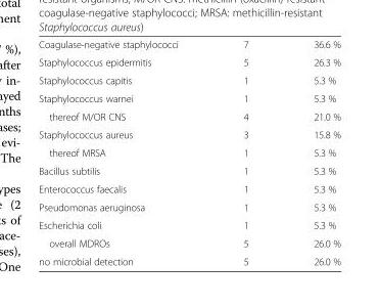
<table><tbody><tr><td>Coagulase-negative staphylococci</td><td>7</td><td>36.6 %</td></tr><tr><td>Staphylococcus epidermitis</td><td>5</td><td>26.3 %</td></tr><tr><td>Staphylococcus capitis</td><td>1</td><td>5.3 %</td></tr><tr><td>Staphylococcus warnei</td><td>1</td><td>5.3 %</td></tr><tr><td>thereof M/OR CNS</td><td>4</td><td>21.0 %</td></tr><tr><td>Staphylococcus aureus</td><td>3</td><td>15.8 %</td></tr><tr><td>thereof MRSA</td><td>1</td><td>5.3 %</td></tr><tr><td>Bacillus subtilis</td><td>1</td><td>5.3 %</td></tr><tr><td>Enterococcus faecalis</td><td>1</td><td>5.3 %</td></tr><tr><td>Pseudomonas aeruginosa</td><td>1</td><td>5.3 %</td></tr><tr><td>Escherichia coli</td><td>1</td><td>5.3 %</td></tr><tr><td>overall MDROs</td><td>5</td><td>26.0 %</td></tr><tr><td>no microbial detection</td><td>5</td><td>26.0 %</td></tr></tbody></table>